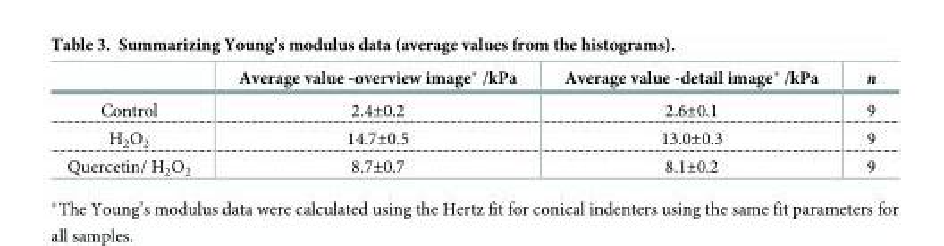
<table><thead><tr><td></td><td>Average value -overview image* /kPa</td><td>Average value -detail image* /kPa</td><td>n</td></tr></thead><tbody><tr><td>Control</td><td>2.4±0.2</td><td>2.6±0.1</td><td>9</td></tr><tr><td>H<sub>2</sub>O<sub>2</sub></td><td>14.7±0.5</td><td>13.0±0.3</td><td>9</td></tr><tr><td>Quercetin/ H<sub>2</sub>O<sub>2</sub></td><td>8.7±0.7</td><td>8.1±0.2</td><td>9</td></tr></tbody></table>